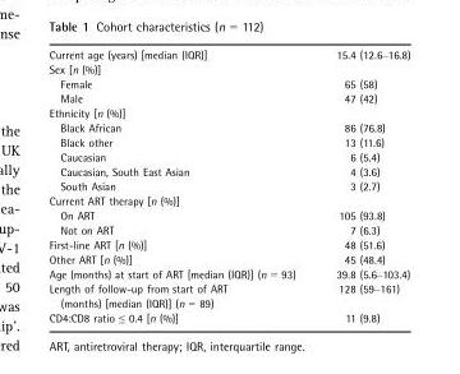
<table><tbody><tr><td>Current age (years) [median (IQR)]</td><td>15.4 (12.6–16.8)</td></tr><tr><td colspan="2">Sex [n (%)]</td></tr><tr><td>Female</td><td>65 (58)</td></tr><tr><td>Male</td><td>47 (42)</td></tr><tr><td colspan="2">Ethnicity [n (%)]</td></tr><tr><td>Black African</td><td>86 (76.8)</td></tr><tr><td>Black other</td><td>13 (11.6)</td></tr><tr><td>Caucasian</td><td>6 (5.4)</td></tr><tr><td>Caucasian, South East Asian</td><td>4 (3.6)</td></tr><tr><td>South Asian</td><td>3 (2.7)</td></tr><tr><td colspan="2">Current ART therapy [n (%)]</td></tr><tr><td>On ART</td><td>105 (93.8)</td></tr><tr><td>Not on ART</td><td>7 (6.3)</td></tr><tr><td>First-line ART [n (%)]</td><td>48 (51.6)</td></tr><tr><td>Other ART [n (%)]</td><td>45 (48.4)</td></tr><tr><td>Age (months) at start of ART [median (IQR)] (n = 93)</td><td>39.8 (5.6–103.4)</td></tr><tr><td>Length of follow-up from start of ART (months) [median (IQR)] (n = 89)</td><td>128 (59–161)</td></tr><tr><td>CD4:CD8 ratio ≤ 0.4 [n (%)]</td><td>11 (9.8)</td></tr></tbody></table>